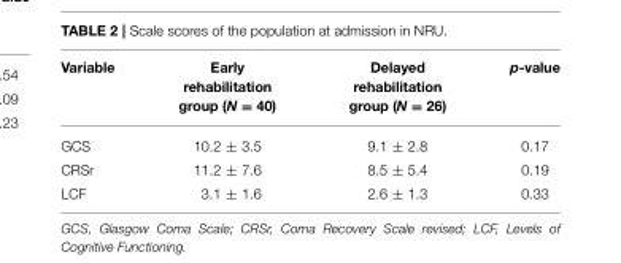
<table><thead><tr><td>Variable</td><td>Early rehabilitation group (N = 40)</td><td>Delayed rehabilitation group (N = 26)</td><td>p-value</td></tr></thead><tbody><tr><td>GCS</td><td>10.2 ± 3.5</td><td>9.1 ± 2.8</td><td>0.17</td></tr><tr><td>CRSr</td><td>11.2 ± 7.6</td><td>8.5 ± 5.4</td><td>0.19</td></tr><tr><td>LCF</td><td>3.1 ± 1.6</td><td>2.6 ± 1.3</td><td>0.33</td></tr></tbody></table>